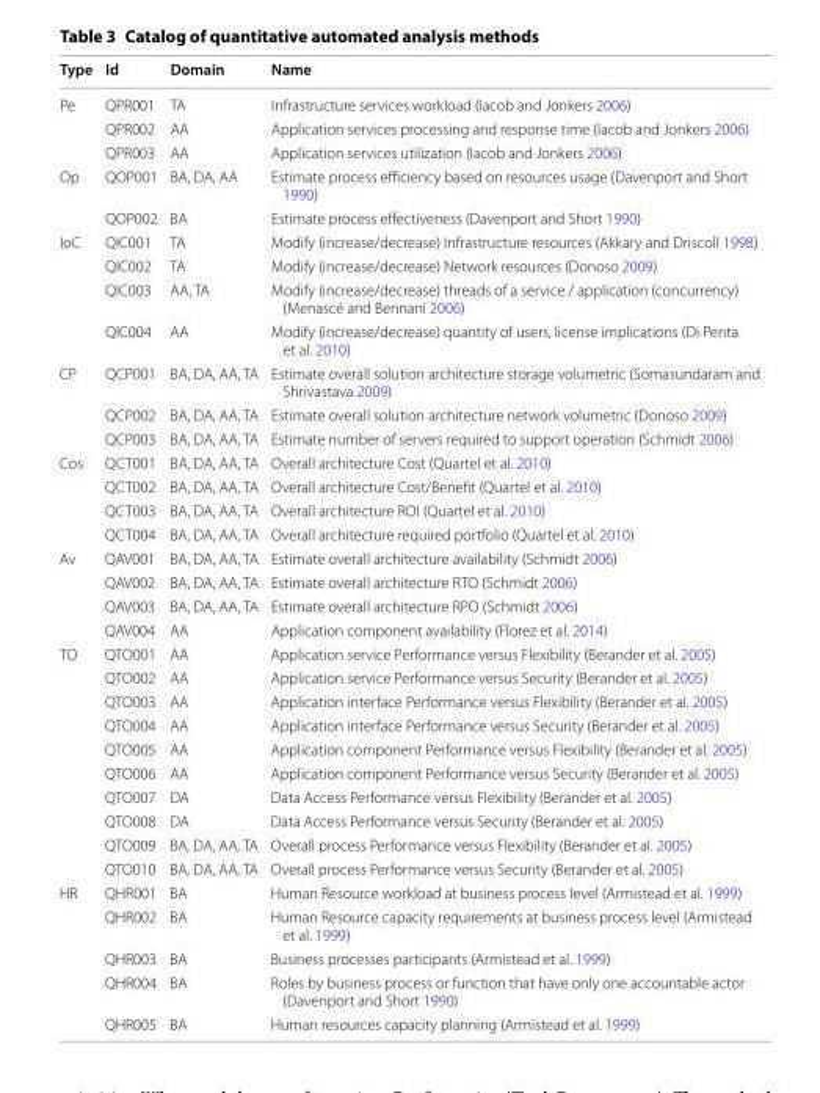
<table><thead><tr><td>Type</td><td>Id</td><td>Domain</td><td>Name</td></tr></thead><tbody><tr><td rowspan="3">Pe</td><td>QPR001</td><td>TA</td><td>Infrastructure services workload (Iacob and Jonkers 2006)</td></tr><tr><td>QPR002</td><td>AA</td><td>Application services processing and response time (Iacob and Jonkers 2006)</td></tr><tr><td>QPR003</td><td>AA</td><td>Application services utilization (Iacob and Jonkers 2006)</td></tr><tr><td rowspan="2">Op</td><td>QOP001</td><td>BA, DA, AA</td><td>Estimate process efficiency based on resources usage (Davenport and Short 1990)</td></tr><tr><td>QOP002</td><td>BA</td><td>Estimate process effectiveness (Davenport and Short 1990)</td></tr><tr><td rowspan="4">IoC</td><td>QIC001</td><td>TA</td><td>Modify (increase/decrease) Infrastructure resources (Akkary and Driscoll 1998)</td></tr><tr><td>QIC002</td><td>TA</td><td>Modify (increase/decrease) Network resources (Donoso 2009)</td></tr><tr><td>QIC003</td><td>AA, TA</td><td>Modify (increase/decrease) threads of a service / application (concurrency) (Menascé and Bennani 2006)</td></tr><tr><td>QIC004</td><td>AA</td><td>Modify (increase/decrease) quantity of users, license implications (Di Penta et al. 2010)</td></tr><tr><td rowspan="3">CP</td><td>QCP001</td><td>BA, DA, AA, TA</td><td>Estimate overall solution architecture storage volumetric (Somasundaram and Shrivastava 2009)</td></tr><tr><td>QCP002</td><td>BA, DA, AA, TA</td><td>Estimate overall solution architecture network volumetric (Donoso 2009)</td></tr><tr><td>QCP003</td><td>BA, DA, AA, TA</td><td>Estimate number of servers required to support operation (Schmidt 2006)</td></tr><tr><td rowspan="4">Cos</td><td>QCT001</td><td>BA, DA, AA, TA</td><td>Overall architecture Cost (Quartel et al. 2010)</td></tr><tr><td>QCT002</td><td>BA, DA, AA, TA</td><td>Overall architecture Cost/Benefit (Quartel et al. 2010)</td></tr><tr><td>QCT003</td><td>BA, DA, AA, TA</td><td>Overall architecture ROI (Quartel et al. 2010)</td></tr><tr><td>QCT004</td><td>BA, DA, AA, TA</td><td>Overall architecture required portfolio (Quartel et al. 2010)</td></tr><tr><td rowspan="4">Av</td><td>QAV001</td><td>BA, DA, AA, TA</td><td>Estimate overall architecture availability (Schmidt 2006)</td></tr><tr><td>QAV002</td><td>BA, DA, AA, TA</td><td>Estimate overall architecture RTO (Schmidt 2006)</td></tr><tr><td>QAV003</td><td>BA, DA, AA, TA</td><td>Estimate overall architecture RPO (Schmidt 2006)</td></tr><tr><td>QAV004</td><td>AA</td><td>Application component availability (Florez et al. 2014)</td></tr><tr><td rowspan="10">TO</td><td>QTO001</td><td>AA</td><td>Application service Performance versus Flexibility (Berander et al. 2005)</td></tr><tr><td>QTO002</td><td>AA</td><td>Application service Performance versus Security (Berander et al. 2005)</td></tr><tr><td>QTO003</td><td>AA</td><td>Application interface Performance versus Flexibility (Berander et al. 2005)</td></tr><tr><td>QTO004</td><td>AA</td><td>Application interface Performance versus Security (Berander et al. 2005)</td></tr><tr><td>QTO005</td><td>AA</td><td>Application component Performance versus Flexibility (Berander et al. 2005)</td></tr><tr><td>QTO006</td><td>AA</td><td>Application component Performance versus Security (Berander et al. 2005)</td></tr><tr><td>QTO007</td><td>DA</td><td>Data Access Performance versus Flexibility (Berander et al. 2005)</td></tr><tr><td>QTO008</td><td>DA</td><td>Data Access Performance versus Security (Berander et al. 2005)</td></tr><tr><td>QTO009</td><td>BA, DA, AA, TA</td><td>Overall process Performance versus Flexibility (Berander et al. 2005)</td></tr><tr><td>QTO010</td><td>BA, DA, AA, TA</td><td>Overall process Performance versus Security (Berander et al. 2005)</td></tr><tr><td rowspan="5">HR</td><td>QHR001</td><td>BA</td><td>Human Resource workload at business process level (Armistead et al. 1999)</td></tr><tr><td>QHR002</td><td>BA</td><td>Human Resource capacity requirements at business process level (Armistead et al. 1999)</td></tr><tr><td>QHR003</td><td>BA</td><td>Business processes participants (Armistead et al. 1999)</td></tr><tr><td>QHR004</td><td>BA</td><td>Roles by business process or function that have only one accountable actor (Davenport and Short 1990)</td></tr><tr><td>QHR005</td><td>BA</td><td>Human resources capacity planning (Armistead et al. 1999)</td></tr></tbody></table>